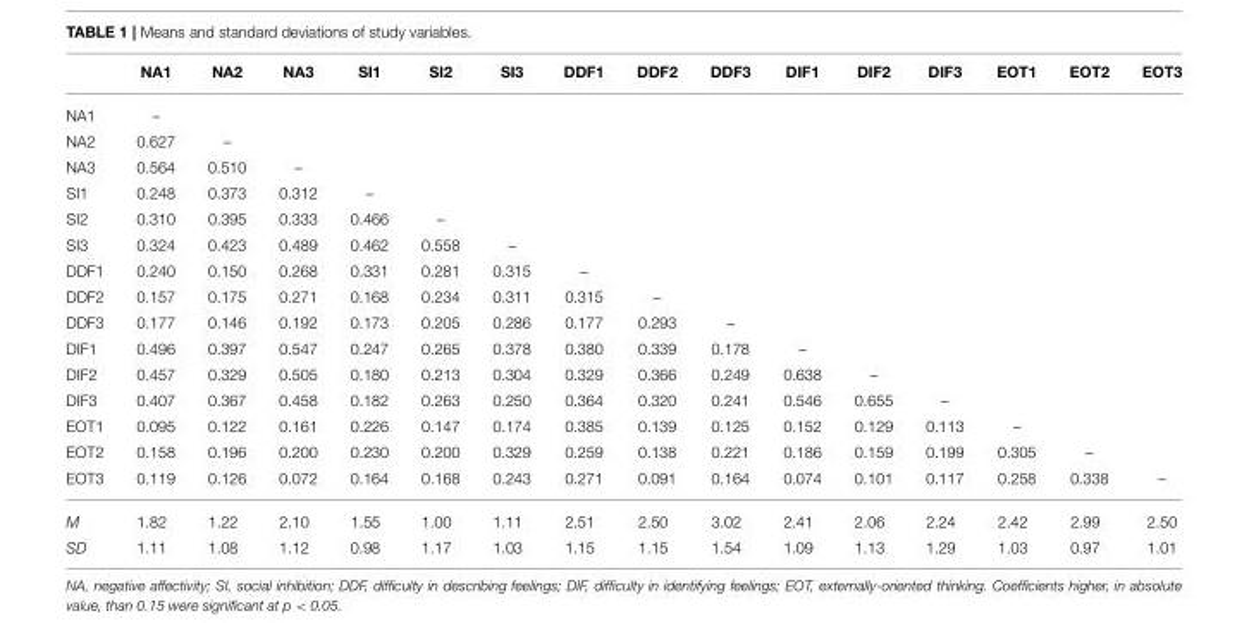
<table><thead><tr><td></td><td>NA1</td><td>NA2</td><td>NA3</td><td>SI1</td><td>SI2</td><td>SI3</td><td>DDF1</td><td>DDF2</td><td>DDF3</td><td>DIF1</td><td>DIF2</td><td>DIF3</td><td>EOT1</td><td>EOT2</td><td>EOT3</td></tr></thead><tbody><tr><td>NA1</td><td>–</td><td></td><td></td><td></td><td></td><td></td><td></td><td></td><td></td><td></td><td></td><td></td><td></td><td></td><td></td></tr><tr><td>NA2</td><td>0.627</td><td>–</td><td></td><td></td><td></td><td></td><td></td><td></td><td></td><td></td><td></td><td></td><td></td><td></td><td></td></tr><tr><td>NA3</td><td>0.564</td><td>0.510</td><td>–</td><td></td><td></td><td></td><td></td><td></td><td></td><td></td><td></td><td></td><td></td><td></td><td></td></tr><tr><td>SI1</td><td>0.248</td><td>0.373</td><td>0.312</td><td>–</td><td></td><td></td><td></td><td></td><td></td><td></td><td></td><td></td><td></td><td></td><td></td></tr><tr><td>SI2</td><td>0.310</td><td>0.395</td><td>0.333</td><td>0.466</td><td>–</td><td></td><td></td><td></td><td></td><td></td><td></td><td></td><td></td><td></td><td></td></tr><tr><td>SI3</td><td>0.324</td><td>0.423</td><td>0.489</td><td>0.462</td><td>0.558</td><td>–</td><td></td><td></td><td></td><td></td><td></td><td></td><td></td><td></td><td></td></tr><tr><td>DDF1</td><td>0.240</td><td>0.150</td><td>0.268</td><td>0.331</td><td>0.281</td><td>0.315</td><td>–</td><td></td><td></td><td></td><td></td><td></td><td></td><td></td><td></td></tr><tr><td>DDF2</td><td>0.157</td><td>0.175</td><td>0.271</td><td>0.168</td><td>0.234</td><td>0.311</td><td>0.315</td><td>–</td><td></td><td></td><td></td><td></td><td></td><td></td><td></td></tr><tr><td>DDF3</td><td>0.177</td><td>0.146</td><td>0.192</td><td>0.173</td><td>0.205</td><td>0.286</td><td>0.177</td><td>0.293</td><td>–</td><td></td><td></td><td></td><td></td><td></td><td></td></tr><tr><td>DIF1</td><td>0.496</td><td>0.397</td><td>0.547</td><td>0.247</td><td>0.265</td><td>0.378</td><td>0.380</td><td>0.339</td><td>0.178</td><td>–</td><td></td><td></td><td></td><td></td><td></td></tr><tr><td>DIF2</td><td>0.457</td><td>0.329</td><td>0.505</td><td>0.180</td><td>0.213</td><td>0.304</td><td>0.329</td><td>0.366</td><td>0.249</td><td>0.638</td><td>–</td><td></td><td></td><td></td><td></td></tr><tr><td>DIF3</td><td>0.407</td><td>0.367</td><td>0.458</td><td>0.182</td><td>0.263</td><td>0.250</td><td>0.364</td><td>0.320</td><td>0.241</td><td>0.546</td><td>0.655</td><td>–</td><td></td><td></td><td></td></tr><tr><td>EOT1</td><td>0.095</td><td>0.122</td><td>0.161</td><td>0.226</td><td>0.147</td><td>0.174</td><td>0.385</td><td>0.139</td><td>0.125</td><td>0.152</td><td>0.129</td><td>0.113</td><td>–</td><td></td><td></td></tr><tr><td>EOT2</td><td>0.158</td><td>0.196</td><td>0.200</td><td>0.230</td><td>0.200</td><td>0.329</td><td>0.259</td><td>0.138</td><td>0.221</td><td>0.186</td><td>0.159</td><td>0.199</td><td>0.305</td><td>–</td><td></td></tr><tr><td>EOT3</td><td>0.119</td><td>0.126</td><td>0.072</td><td>0.164</td><td>0.168</td><td>0.243</td><td>0.271</td><td>0.091</td><td>0.164</td><td>0.074</td><td>0.101</td><td>0.117</td><td>0.258</td><td>0.338</td><td>–</td></tr><tr><td>M</td><td>1.82</td><td>1.22</td><td>2.10</td><td>1.55</td><td>1.00</td><td>1.11</td><td>2.51</td><td>2.50</td><td>3.02</td><td>2.41</td><td>2.06</td><td>2.24</td><td>2.42</td><td>2.99</td><td>2.50</td></tr><tr><td>SD</td><td>1.11</td><td>1.08</td><td>1.12</td><td>0.98</td><td>1.17</td><td>1.03</td><td>1.15</td><td>1.15</td><td>1.54</td><td>1.09</td><td>1.13</td><td>1.29</td><td>1.03</td><td>0.97</td><td>1.01</td></tr></tbody></table>